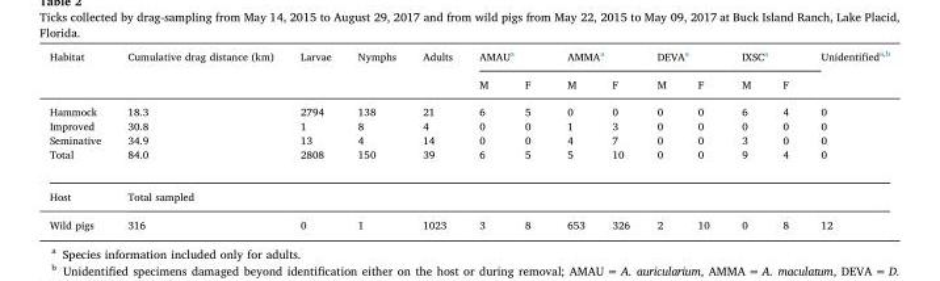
<table><thead><tr><td rowspan="2">Habitat</td><td rowspan="2">Cumulative drag distance (km)</td><td rowspan="2">Larvae</td><td rowspan="2">Nymphs</td><td rowspan="2">Adults</td><td colspan="2">AMAU<sup>a</sup></td><td colspan="2">AMMA<sup>a</sup></td><td colspan="2">DEVA<sup>a</sup></td><td colspan="2">IXSC<sup>a</sup></td><td rowspan="2">Unidentified<sup>a,b</sup></td></tr><tr><td>M</td><td>F</td><td>M</td><td>F</td><td>M</td><td>F</td><td>M</td><td>F</td></tr></thead><tbody><tr><td>Hammock</td><td>18.3</td><td>2794</td><td>138</td><td>21</td><td>6</td><td>5</td><td>0</td><td>0</td><td>0</td><td>0</td><td>6</td><td>4</td><td>0</td></tr><tr><td>Improved</td><td>30.8</td><td>1</td><td>8</td><td>4</td><td>0</td><td>0</td><td>1</td><td>3</td><td>0</td><td>0</td><td>0</td><td>0</td><td>0</td></tr><tr><td>Seminative</td><td>34.9</td><td>13</td><td>4</td><td>14</td><td>0</td><td>0</td><td>4</td><td>7</td><td>0</td><td>0</td><td>3</td><td>0</td><td>0</td></tr><tr><td>Total</td><td>84.0</td><td>2808</td><td>150</td><td>39</td><td>6</td><td>5</td><td>5</td><td>10</td><td>0</td><td>0</td><td>9</td><td>4</td><td>0</td></tr><tr><td>Host</td><td colspan="13">Total sampled</td></tr><tr><td>Wild pigs</td><td>316</td><td>0</td><td>1</td><td>1023</td><td>3</td><td>8</td><td>653</td><td>326</td><td>2</td><td>10</td><td>0</td><td>8</td><td>12</td></tr></tbody></table>